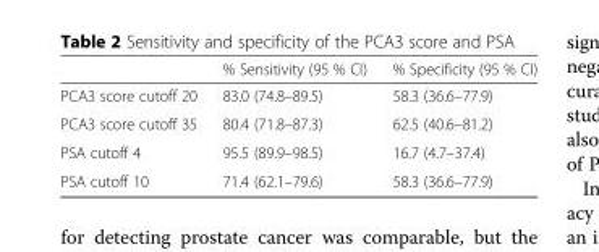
<table><thead><tr><td></td><td>% Sensitivity (95 % CI)</td><td>% Specificity (95 % CI)</td></tr></thead><tbody><tr><td>PCA3 score cutoff 20</td><td>83.0 (74.8–89.5)</td><td>58.3 (36.6–77.9)</td></tr><tr><td>PCA3 score cutoff 35</td><td>80.4 (71.8–87.3)</td><td>62.5 (40.6–81.2)</td></tr><tr><td>PSA cutoff 4</td><td>95.5 (89.9–98.5)</td><td>16.7 (4.7–37.4)</td></tr><tr><td>PSA cutoff 10</td><td>71.4 (62.1–79.6)</td><td>58.3 (36.6–77.9)</td></tr></tbody></table>